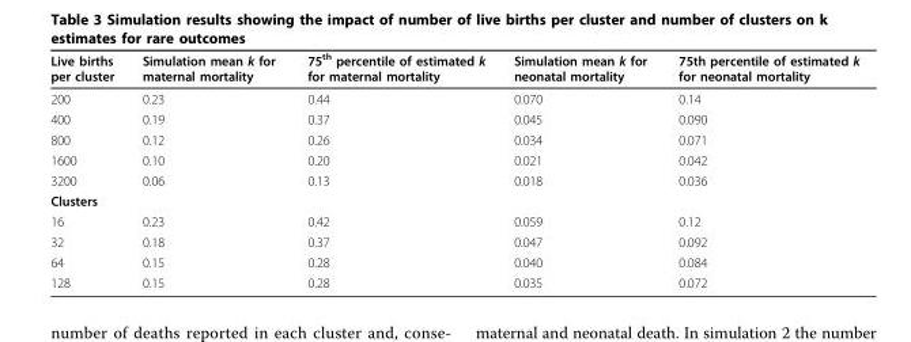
<table><thead><tr><td>Live births per cluster</td><td>Simulation mean k for maternal mortality</td><td>75<sup>th</sup> percentile of estimated k for maternal mortality</td><td>Simulation mean k for neonatal mortality</td><td>75th percentile of estimated k for neonatal mortality</td></tr></thead><tbody><tr><td>200</td><td>0.23</td><td>0.44</td><td>0.070</td><td>0.14</td></tr><tr><td>400</td><td>0.19</td><td>0.37</td><td>0.045</td><td>0.090</td></tr><tr><td>800</td><td>0.12</td><td>0.26</td><td>0.034</td><td>0.071</td></tr><tr><td>1600</td><td>0.10</td><td>0.20</td><td>0.021</td><td>0.042</td></tr><tr><td>3200</td><td>0.06</td><td>0.13</td><td>0.018</td><td>0.036</td></tr><tr><td colspan="5">Clusters</td></tr><tr><td>16</td><td>0.23</td><td>0.42</td><td>0.059</td><td>0.12</td></tr><tr><td>32</td><td>0.18</td><td>0.37</td><td>0.047</td><td>0.092</td></tr><tr><td>64</td><td>0.15</td><td>0.28</td><td>0.040</td><td>0.084</td></tr><tr><td>128</td><td>0.15</td><td>0.28</td><td>0.035</td><td>0.072</td></tr></tbody></table>